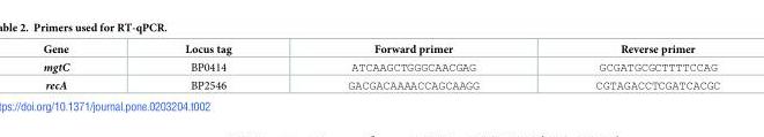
<table><thead><tr><td>Gene</td><td>Locus tag</td><td>Forward primer</td><td>Reverse primer</td></tr></thead><tbody><tr><td>mgtC</td><td>BP0414</td><td>ATCAAGCTGGGCAACGAG</td><td>GCGATGCGCTTTTCCAG</td></tr><tr><td>recA</td><td>BP2546</td><td>GACGACAAAACCAGCAAGG</td><td>CGTAGACCTCGATCACGC</td></tr></tbody></table>